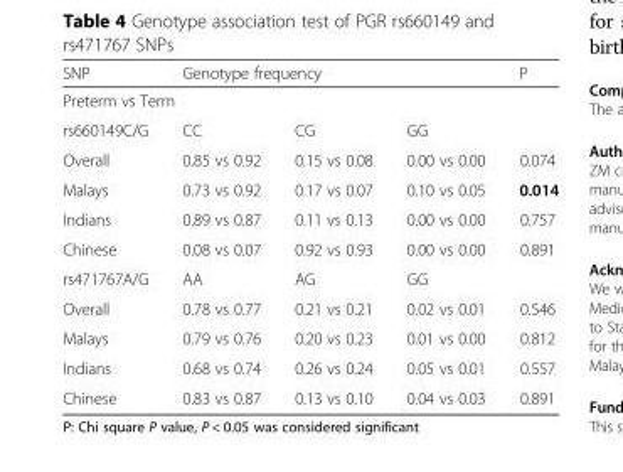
<table><thead><tr><td>SNP</td><td colspan="3">Genotype frequency</td><td rowspan="3">P</td></tr><tr><td colspan="4">Preterm vs Term</td></tr><tr><td>rs660149C/G</td><td>CC</td><td>CG</td><td>GG</td></tr></thead><tbody><tr><td>Overall</td><td>0.85 vs 0.92</td><td>0.15 vs 0.08</td><td>0.00 vs 0.00</td><td>0.074</td></tr><tr><td>Malays</td><td>0.73 vs 0.92</td><td>0.17 vs 0.07</td><td>0.10 vs 0.05</td><td>0.014</td></tr><tr><td>Indians</td><td>0.89 vs 0.87</td><td>0.11 vs 0.13</td><td>0.00 vs 0.00</td><td>0.757</td></tr><tr><td>Chinese</td><td>0.08 vs 0.07</td><td>0.92 vs 0.93</td><td>0.00 vs 0.00</td><td>0.891</td></tr><tr><td>rs471767A/G</td><td>AA</td><td>AG</td><td>GG</td><td></td></tr><tr><td>Overall</td><td>0.78 vs 0.77</td><td>0.21 vs 0.21</td><td>0.02 vs 0.01</td><td>0.546</td></tr><tr><td>Malays</td><td>0.79 vs 0.76</td><td>0.20 vs 0.23</td><td>0.01 vs 0.00</td><td>0.812</td></tr><tr><td>Indians</td><td>0.68 vs 0.74</td><td>0.26 vs 0.24</td><td>0.05 vs 0.01</td><td>0.557</td></tr><tr><td>Chinese</td><td>0.83 vs 0.87</td><td>0.13 vs 0.10</td><td>0.04 vs 0.03</td><td>0.891</td></tr></tbody></table>